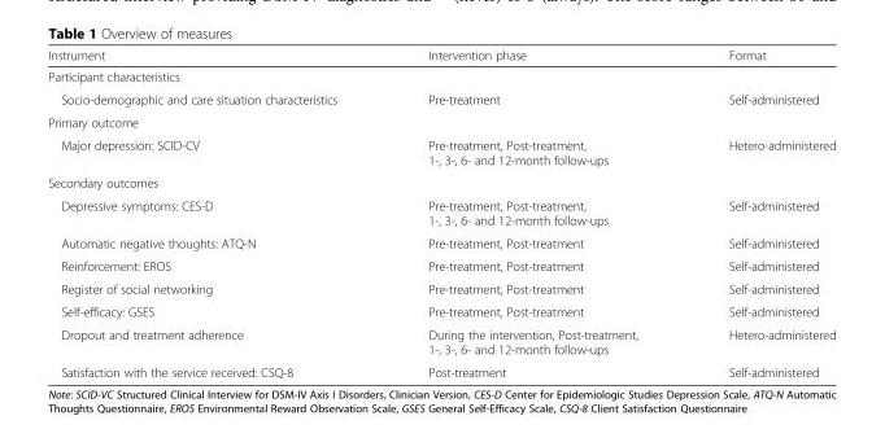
<table><thead><tr><td>Instrument</td><td>Intervention phase</td><td>Format</td></tr></thead><tbody><tr><td colspan="3">Participant characteristics</td></tr><tr><td>Socio-demographic and care situation characteristics</td><td>Pre-treatment</td><td>Self-administered</td></tr><tr><td colspan="3">Primary outcome</td></tr><tr><td>Major depression: SCID-CV</td><td>Pre-treatment, Post-treatment, 1-, 3-, 6- and 12-month follow-ups</td><td>Hetero-administered</td></tr><tr><td colspan="3">Secondary outcomes</td></tr><tr><td>Depressive symptoms: CES-D</td><td>Pre-treatment, Post-treatment, 1-, 3-, 6- and 12-month follow-ups</td><td>Self-administered</td></tr><tr><td>Automatic negative thoughts: ATQ-N</td><td>Pre-treatment, Post-treatment</td><td>Self-administered</td></tr><tr><td>Reinforcement: EROS</td><td>Pre-treatment, Post-treatment</td><td>Self-administered</td></tr><tr><td>Register of social networking</td><td>Pre-treatment, Post-treatment</td><td>Self-administered</td></tr><tr><td>Self-efficacy: GSES</td><td>Pre-treatment, Post-treatment</td><td>Self-administered</td></tr><tr><td>Dropout and treatment adherence</td><td>During the intervention, Post-treatment, 1-, 3-, 6- and 12-month follow-ups</td><td>Hetero-administered</td></tr><tr><td>Satisfaction with the service received: CSQ-8</td><td>Post-treatment</td><td>Self-administered</td></tr></tbody></table>